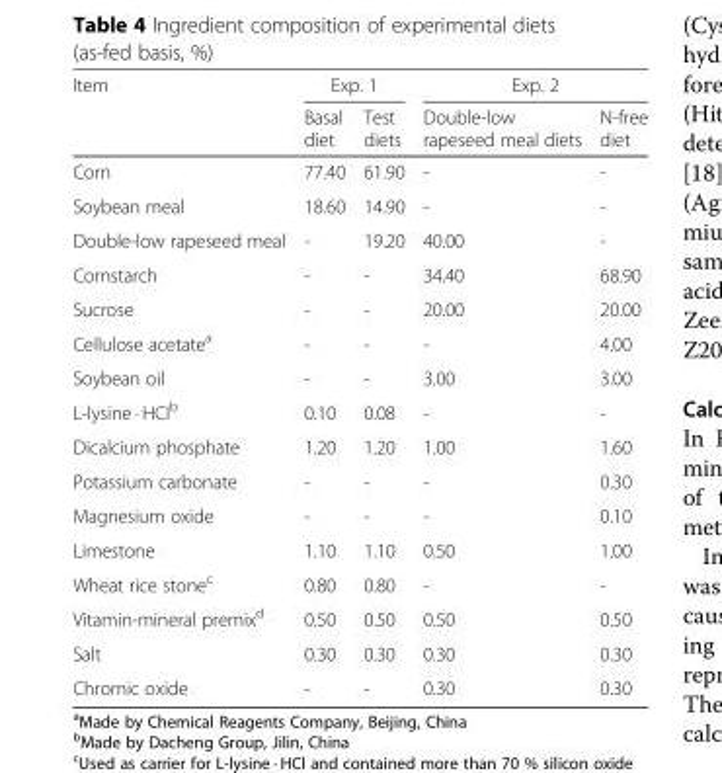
<table><thead><tr><td rowspan="2">Item</td><td colspan="2">Exp. 1</td><td colspan="2">Exp. 2</td></tr><tr><td>Basal diet</td><td>Test diets</td><td>Double-low rapeseed meal diets</td><td>N-free diet</td></tr></thead><tbody><tr><td>Corn</td><td>77.40</td><td>61.90</td><td>-</td><td>-</td></tr><tr><td>Soybean meal</td><td>18.60</td><td>14.90</td><td>-</td><td>-</td></tr><tr><td>Double-low rapeseed meal</td><td>-</td><td>19.20</td><td>40.00</td><td>-</td></tr><tr><td>Cornstarch</td><td>-</td><td>-</td><td>34.40</td><td>68.90</td></tr><tr><td>Sucrose</td><td>-</td><td>-</td><td>20.00</td><td>20.00</td></tr><tr><td>Cellulose acetate<sup>a</sup></td><td>-</td><td>-</td><td>-</td><td>4.00</td></tr><tr><td>Soybean oil</td><td>-</td><td>-</td><td>3.00</td><td>3.00</td></tr><tr><td>L-lysine · HCl<sup>b</sup></td><td>0.10</td><td>0.08</td><td>-</td><td>-</td></tr><tr><td>Dicalcium phosphate</td><td>1.20</td><td>1.20</td><td>1.00</td><td>1.60</td></tr><tr><td>Potassium carbonate</td><td>-</td><td>-</td><td>-</td><td>0.30</td></tr><tr><td>Magnesium oxide</td><td>-</td><td>-</td><td>-</td><td>0.10</td></tr><tr><td>Limestone</td><td>1.10</td><td>1.10</td><td>0.50</td><td>1.00</td></tr><tr><td>Wheat rice stone<sup>c</sup></td><td>0.80</td><td>0.80</td><td>-</td><td>-</td></tr><tr><td>Vitamin-mineral premix<sup>d</sup></td><td>0.50</td><td>0.50</td><td>0.50</td><td>0.50</td></tr><tr><td>Salt</td><td>0.30</td><td>0.30</td><td>0.30</td><td>0.30</td></tr><tr><td>Chromic oxide</td><td>-</td><td>-</td><td>0.30</td><td>0.30</td></tr></tbody></table>